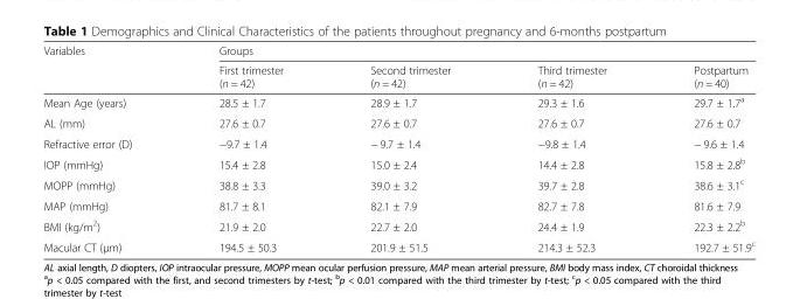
<table><thead><tr><td rowspan="2">Variables</td><td colspan="4">Groups</td></tr><tr><td>First trimester (n = 42)</td><td>Second trimester (n = 42)</td><td>Third trimester (n = 42)</td><td>Postpartum (n = 40)</td></tr></thead><tbody><tr><td>Mean Age (years)</td><td>28.5 ± 1.7</td><td>28.9 ± 1.7</td><td>29.3 ± 1.6</td><td>29.7 ± 1.7<sup>a</sup></td></tr><tr><td>AL (mm)</td><td>27.6 ± 0.7</td><td>27.6 ± 0.7</td><td>27.6 ± 0.7</td><td>27.6 ± 0.7</td></tr><tr><td>Refractive error (D)</td><td>−9.7 ± 1.4</td><td>− 9.7 ± 1.4</td><td>−9.8 ± 1.4</td><td>− 9.6 ± 1.4</td></tr><tr><td>IOP (mmHg)</td><td>15.4 ± 2.8</td><td>15.0 ± 2.4</td><td>14.4 ± 2.8</td><td>15.8 ± 2.8<sup>b</sup></td></tr><tr><td>MOPP (mmHg)</td><td>38.8 ± 3.3</td><td>39.0 ± 3.2</td><td>39.7 ± 2.8</td><td>38.6 ± 3.1<sup>c</sup></td></tr><tr><td>MAP (mmHg)</td><td>81.7 ± 8.1</td><td>82.1 ± 7.9</td><td>82.7 ± 7.8</td><td>81.6 ± 7.9</td></tr><tr><td>BMI (kg/m<sup>2</sup>)</td><td>21.9 ± 2.0</td><td>22.7 ± 2.0</td><td>24.4 ± 1.9</td><td>22.3 ± 2.2<sup>b</sup></td></tr><tr><td>Macular CT (μm)</td><td>194.5 ± 50.3</td><td>201.9 ± 51.5</td><td>214.3 ± 52.3</td><td>192.7 ± 51.9<sup>c</sup></td></tr></tbody></table>